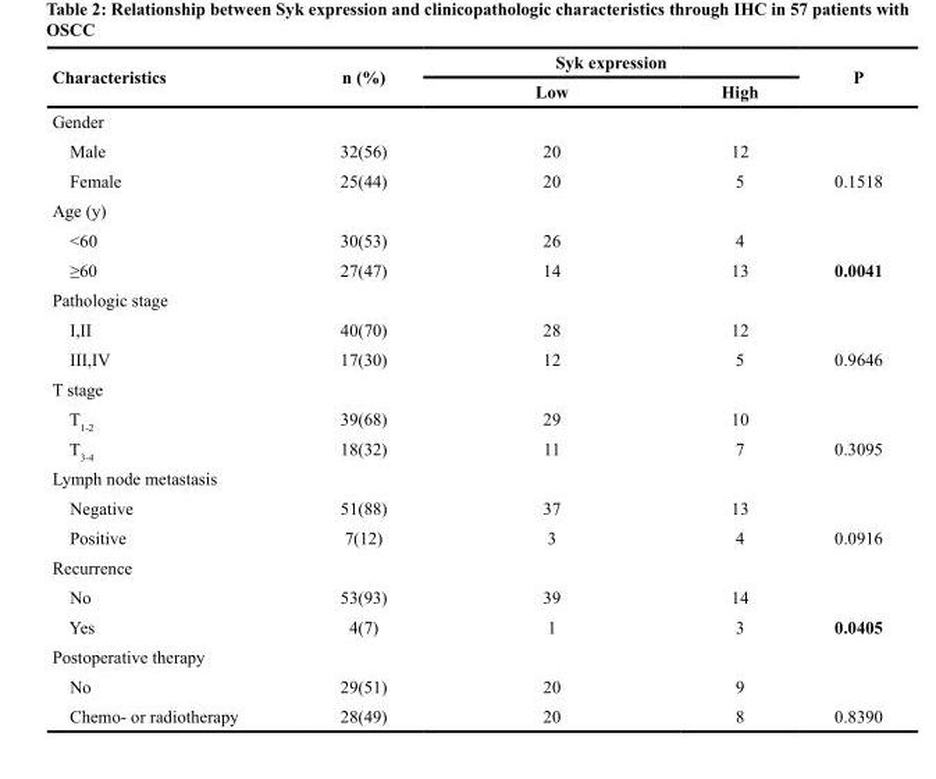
<table><thead><tr><td rowspan="2">Characteristics</td><td rowspan="2">n (%)</td><td colspan="2">Syk expression</td><td rowspan="2">P</td></tr><tr><td>Low</td><td>High</td></tr></thead><tbody><tr><td colspan="5">Gender</td></tr><tr><td>Male</td><td>32(56)</td><td>20</td><td>12</td><td></td></tr><tr><td>Female</td><td>25(44)</td><td>20</td><td>5</td><td>0.1518</td></tr><tr><td colspan="5">Age (y)</td></tr><tr><td>&lt;60</td><td>30(53)</td><td>26</td><td>4</td><td></td></tr><tr><td>≥60</td><td>27(47)</td><td>14</td><td>13</td><td>0.0041</td></tr><tr><td colspan="5">Pathologic stage</td></tr><tr><td>I,II</td><td>40(70)</td><td>28</td><td>12</td><td></td></tr><tr><td>III,IV</td><td>17(30)</td><td>12</td><td>5</td><td>0.9646</td></tr><tr><td colspan="5">T stage</td></tr><tr><td>T<sub>1-2</sub></td><td>39(68)</td><td>29</td><td>10</td><td></td></tr><tr><td>T<sub>3-4</sub></td><td>18(32)</td><td>11</td><td>7</td><td>0.3095</td></tr><tr><td colspan="5">Lymph node metastasis</td></tr><tr><td>Negative</td><td>51(88)</td><td>37</td><td>13</td><td></td></tr><tr><td>Positive</td><td>7(12)</td><td>3</td><td>4</td><td>0.0916</td></tr><tr><td colspan="5">Recurrence</td></tr><tr><td>No</td><td>53(93)</td><td>39</td><td>14</td><td></td></tr><tr><td>Yes</td><td>4(7)</td><td>1</td><td>3</td><td>0.0405</td></tr><tr><td colspan="5">Postoperative therapy</td></tr><tr><td>No</td><td>29(51)</td><td>20</td><td>9</td><td></td></tr><tr><td>Chemo- or radiotherapy</td><td>28(49)</td><td>20</td><td>8</td><td>0.8390</td></tr></tbody></table>